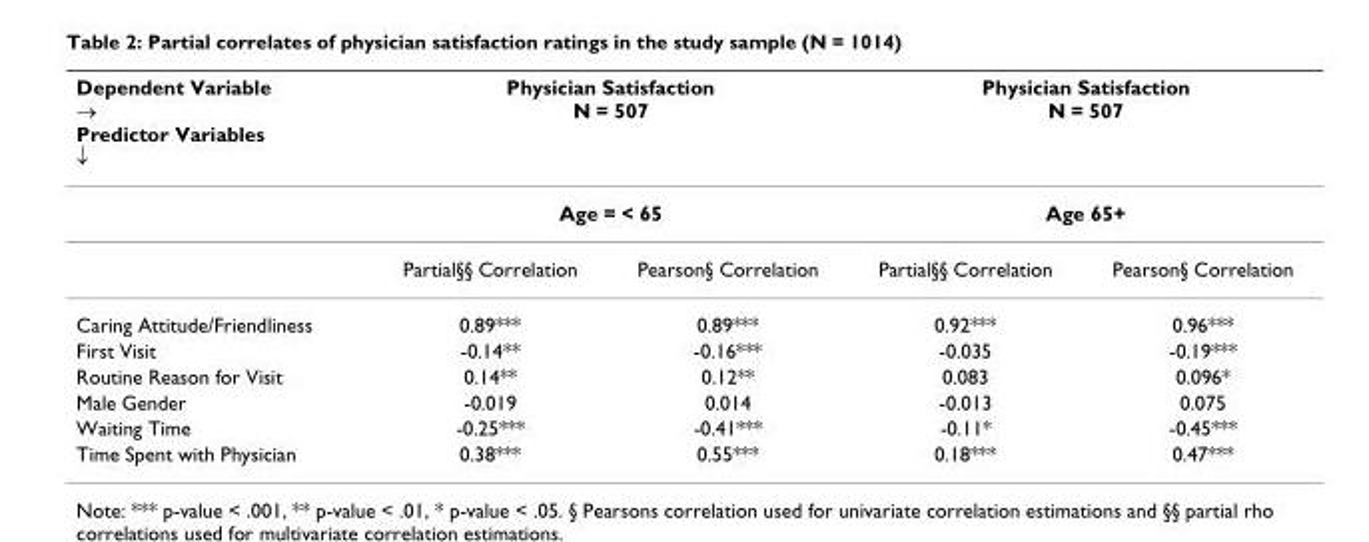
<table><thead><tr><td rowspan="3">Dependent Variable → Predictor Variables ↓</td><td rowspan="2" colspan="2">Physician Satisfaction N = 507 Age = &lt; 65</td><td rowspan="2" colspan="2">Physician Satisfaction N = 507 Age 65+</td></tr><tr></tr><tr><td>Partial§§ Correlation</td><td>Pearson§ Correlation</td><td>Partial§§ Correlation</td><td>Pearson§ Correlation</td></tr></thead><tbody><tr><td>Caring Attitude/Friendliness</td><td>0.89***</td><td>0.89***</td><td>0.92***</td><td>0.96***</td></tr><tr><td>First Visit</td><td>-0.14**</td><td>-0.16***</td><td>-0.035</td><td>-0.19***</td></tr><tr><td>Routine Reason for Visit</td><td>0.14**</td><td>0.12**</td><td>0.083</td><td>0.096*</td></tr><tr><td>Male Gender</td><td>-0.019</td><td>0.014</td><td>-0.013</td><td>0.075</td></tr><tr><td>Waiting Time</td><td>-0.25***</td><td>-0.41***</td><td>-0.11*</td><td>-0.45***</td></tr><tr><td>Time Spent with Physician</td><td>0.38***</td><td>0.55***</td><td>0.18***</td><td>0.47***</td></tr></tbody></table>